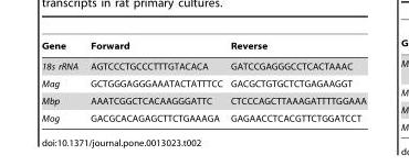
<table><thead><tr><td>Gene</td><td>Forward</td><td>Reverse</td></tr></thead><tbody><tr><td>18s rRNA</td><td>AGTCCCTGCCCTTTGTACACA</td><td>GATCCGAGGGCCTCACTAAAC</td></tr><tr><td>Mag</td><td>GCTGGGAGGGAAATACTATTTCC</td><td>GACGCTGTGCTCTGAGAAGGT</td></tr><tr><td>Mbp</td><td>AAATCGGCTCACAAGGGATTC</td><td>CTCCCAGCTTAAAGATTTTGGAAA</td></tr><tr><td>Mog</td><td>GACGCACAGAGCTTCTGAAAGA</td><td>GAGAACCTCACGTTCTGGATCCT</td></tr></tbody></table>